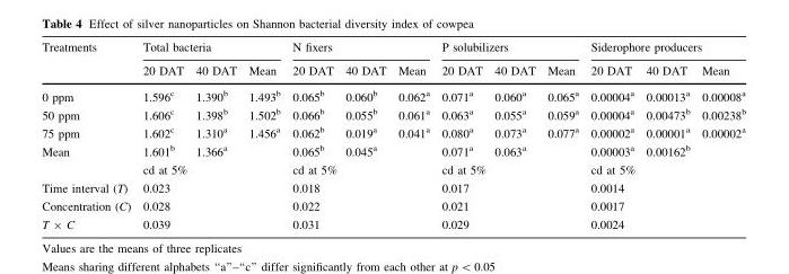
<table><thead><tr><td rowspan="2">Treatments</td><td colspan="3">Total bacteria</td><td colspan="3">N fixers</td><td colspan="3">P solubilizers</td><td colspan="3">Siderophore producers</td></tr><tr><td>20 DAT</td><td>40 DAT</td><td>Mean</td><td>20 DAT</td><td>40 DAT</td><td>Mean</td><td>20 DAT</td><td>40 DAT</td><td>Mean</td><td>20 DAT</td><td>40 DAT</td><td>Mean</td></tr></thead><tbody><tr><td>0 ppm</td><td>1.596<sup>c</sup></td><td>1.390<sup>b</sup></td><td>1.493<sup>b</sup></td><td>0.065<sup>b</sup></td><td>0.060<sup>b</sup></td><td>0.062<sup>a</sup></td><td>0.071<sup>a</sup></td><td>0.060<sup>a</sup></td><td>0.065<sup>a</sup></td><td>0.00004<sup>a</sup></td><td>0.00013<sup>a</sup></td><td>0.00008<sup>a</sup></td></tr><tr><td>50 ppm</td><td>1.606<sup>c</sup></td><td>1.398<sup>b</sup></td><td>1.502<sup>b</sup></td><td>0.066<sup>b</sup></td><td>0.055<sup>b</sup></td><td>0.061<sup>a</sup></td><td>0.063<sup>a</sup></td><td>0.055<sup>a</sup></td><td>0.059<sup>a</sup></td><td>0.00004<sup>a</sup></td><td>0.00473<sup>b</sup></td><td>0.00238<sup>b</sup></td></tr><tr><td>75 ppm</td><td>1.602<sup>c</sup></td><td>1.310<sup>a</sup></td><td>1.456<sup>a</sup></td><td>0.062<sup>b</sup></td><td>0.019<sup>a</sup></td><td>0.041<sup>a</sup></td><td>0.080<sup>a</sup></td><td>0.073<sup>a</sup></td><td>0.077<sup>a</sup></td><td>0.00002<sup>a</sup></td><td>0.00001<sup>a</sup></td><td>0.00002<sup>a</sup></td></tr><tr><td rowspan="2">Mean</td><td>1.601<sup>b</sup></td><td>1.366<sup>a</sup></td><td></td><td>0.065<sup>b</sup></td><td>0.045<sup>a</sup></td><td></td><td>0.071<sup>a</sup></td><td>0.063<sup>a</sup></td><td></td><td>0.00003<sup>a</sup></td><td>0.00162<sup>b</sup></td><td></td></tr><tr><td colspan="2">cd at 5%</td><td></td><td colspan="2">cd at 5%</td><td></td><td colspan="2">cd at 5%</td><td></td><td colspan="2">cd at 5%</td><td></td></tr><tr><td>Time interval (T)</td><td colspan="2">0.023</td><td></td><td colspan="2">0.018</td><td></td><td colspan="2">0.017</td><td></td><td colspan="2">0.0014</td><td></td></tr><tr><td>Concentration (C)</td><td colspan="2">0.028</td><td></td><td colspan="2">0.022</td><td></td><td colspan="2">0.021</td><td></td><td colspan="2">0.0017</td><td></td></tr><tr><td>T × C</td><td colspan="2">0.039</td><td></td><td colspan="2">0.031</td><td></td><td colspan="2">0.029</td><td></td><td colspan="2">0.0024</td><td></td></tr></tbody></table>